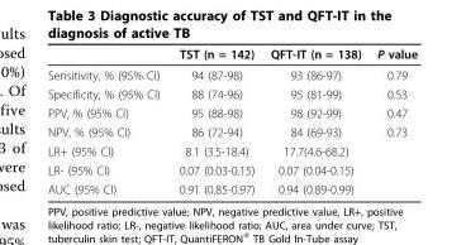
<table><thead><tr><td></td><td>TST (n = 142)</td><td>QFT-IT (n = 138)</td><td>P value</td></tr></thead><tbody><tr><td>Sensitivity, % (95% CI)</td><td>94 (87-98)</td><td>93 (86-97)</td><td>0.79</td></tr><tr><td>Specificity, % (95% CI)</td><td>88 (74-96)</td><td>95 (81-99)</td><td>0.53</td></tr><tr><td>PPV, % (95% CI)</td><td>95 (88-98)</td><td>98 (92-99)</td><td>0.47</td></tr><tr><td>NPV, % (95% CI)</td><td>86 (72-94)</td><td>84 (69-93)</td><td>0.73</td></tr><tr><td>LR+ (95% CI)</td><td>8.1 (3.5-18.4)</td><td>17.7(4.6-68.2)</td><td></td></tr><tr><td>LR- (95% CI)</td><td>0.07 (0.03-0.15)</td><td>0.07 (0.04-0.15)</td><td></td></tr><tr><td>AUC (95% CI)</td><td>0.91 (0.85-0.97)</td><td>0.94 (0.89-0.99)</td><td></td></tr></tbody></table>